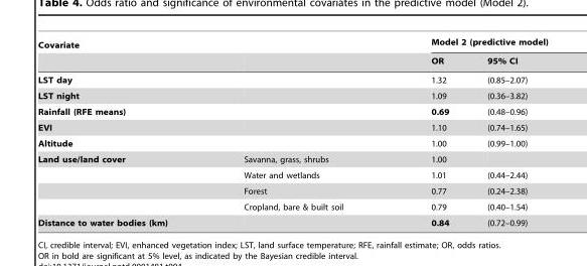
<table><thead><tr><td rowspan="2">Covariate</td><td rowspan="2"></td><td colspan="2">Model 2 (predictive model)</td></tr><tr><td>OR</td><td>95% CI</td></tr></thead><tbody><tr><td>LST day</td><td></td><td>1.32</td><td>(0.85–2.07)</td></tr><tr><td>LST night</td><td></td><td>1.09</td><td>(0.36–3.82)</td></tr><tr><td>Rainfall (RFE means)</td><td></td><td>0.69</td><td>(0.48–0.96)</td></tr><tr><td>EVI</td><td></td><td>1.10</td><td>(0.74–1.65)</td></tr><tr><td>Altitude</td><td></td><td>1.00</td><td>(0.99–1.00)</td></tr><tr><td rowspan="4">Land use/land cover</td><td>Savanna, grass, shrubs</td><td>1.00</td><td></td></tr><tr><td>Water and wetlands</td><td>1.01</td><td>(0.44–2.44)</td></tr><tr><td>Forest</td><td>0.77</td><td>(0.24–2.38)</td></tr><tr><td>Cropland, bare &amp; built soil</td><td>0.79</td><td>(0.40–1.54)</td></tr><tr><td>Distance to water bodies (km)</td><td></td><td>0.84</td><td>(0.72–0.99)</td></tr></tbody></table>